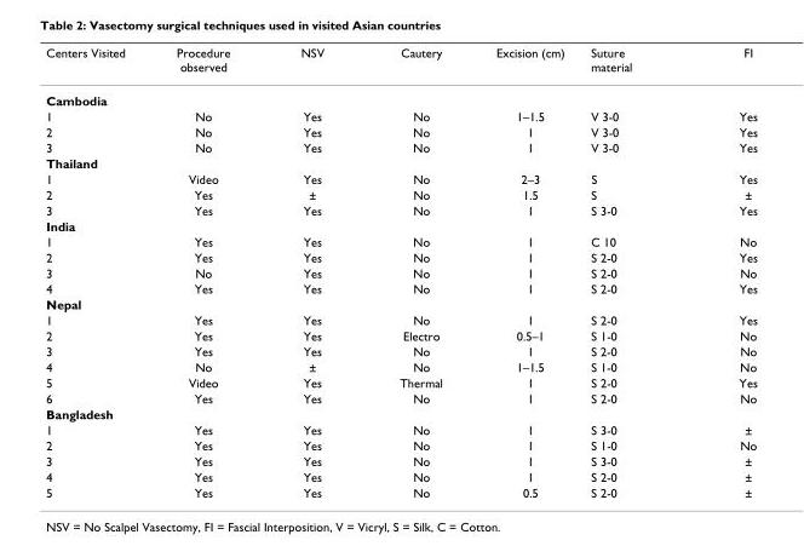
<table><thead><tr><td>Centers Visited</td><td>Procedure observed</td><td>NSV</td><td>Cautery</td><td>Excision (cm)</td><td>Suture material</td><td>FI</td></tr></thead><tbody><tr><td colspan="7">Cambodia</td></tr><tr><td>1</td><td>No</td><td>Yes</td><td>No</td><td>1–1.5</td><td>V 3-0</td><td>Yes</td></tr><tr><td>2</td><td>No</td><td>Yes</td><td>No</td><td>1</td><td>V 3-0</td><td>Yes</td></tr><tr><td>3</td><td>No</td><td>Yes</td><td>No</td><td>1</td><td>V 3-0</td><td>Yes</td></tr><tr><td colspan="7">Thailand</td></tr><tr><td>1</td><td>Video</td><td>Yes</td><td>No</td><td>2–3</td><td>S</td><td>Yes</td></tr><tr><td>2</td><td>Yes</td><td>±</td><td>No</td><td>1.5</td><td>S</td><td>±</td></tr><tr><td>3</td><td>Yes</td><td>Yes</td><td>No</td><td>1</td><td>S 3-0</td><td>Yes</td></tr><tr><td colspan="7">India</td></tr><tr><td>1</td><td>Yes</td><td>Yes</td><td>No</td><td>1</td><td>C 10</td><td>No</td></tr><tr><td>2</td><td>Yes</td><td>Yes</td><td>No</td><td>1</td><td>S 2-0</td><td>Yes</td></tr><tr><td>3</td><td>No</td><td>Yes</td><td>No</td><td>1</td><td>S 2-0</td><td>No</td></tr><tr><td>4</td><td>Yes</td><td>Yes</td><td>No</td><td>1</td><td>S 2-0</td><td>Yes</td></tr><tr><td colspan="7">Nepal</td></tr><tr><td>1</td><td>Yes</td><td>Yes</td><td>No</td><td>1</td><td>S 2-0</td><td>Yes</td></tr><tr><td>2</td><td>Yes</td><td>Yes</td><td>Electro</td><td>0.5–1</td><td>S 1-0</td><td>No</td></tr><tr><td>3</td><td>Yes</td><td>Yes</td><td>No</td><td>1</td><td>S 2-0</td><td>No</td></tr><tr><td>4</td><td>No</td><td>±</td><td>No</td><td>1–1.5</td><td>S 1-0</td><td>No</td></tr><tr><td>5</td><td>Video</td><td>Yes</td><td>Thermal</td><td>1</td><td>S 2-0</td><td>Yes</td></tr><tr><td>6</td><td>Yes</td><td>Yes</td><td>No</td><td>1</td><td>S 2-0</td><td>No</td></tr><tr><td colspan="7">Bangladesh</td></tr><tr><td>1</td><td>Yes</td><td>Yes</td><td>No</td><td>1</td><td>S 3-0</td><td>±</td></tr><tr><td>2</td><td>Yes</td><td>Yes</td><td>No</td><td>1</td><td>S 1-0</td><td>No</td></tr><tr><td>3</td><td>Yes</td><td>Yes</td><td>No</td><td>1</td><td>S 3-0</td><td>±</td></tr><tr><td>4</td><td>Yes</td><td>Yes</td><td>No</td><td>1</td><td>S 2-0</td><td>±</td></tr><tr><td>5</td><td>Yes</td><td>Yes</td><td>No</td><td>0.5</td><td>S 2-0</td><td>±</td></tr></tbody></table>